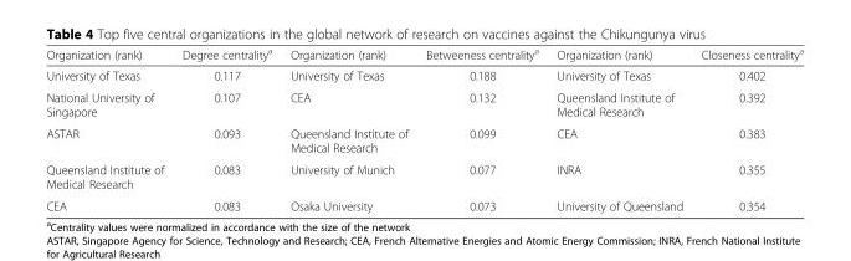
<table><thead><tr><td>Organization (rank)</td><td>Degree centrality<sup>a</sup></td><td>Organization (rank)</td><td>Betweeness centrality<sup>a</sup></td><td>Organization (rank)</td><td>Closeness centrality<sup>a</sup></td></tr></thead><tbody><tr><td>University of Texas</td><td>0.117</td><td>University of Texas</td><td>0.188</td><td>University of Texas</td><td>0.402</td></tr><tr><td>National University of Singapore</td><td>0.107</td><td>CEA</td><td>0.132</td><td>Queensland Institute of Medical Research</td><td>0.392</td></tr><tr><td>ASTAR</td><td>0.093</td><td>Queensland Institute of Medical Research</td><td>0.099</td><td>CEA</td><td>0.383</td></tr><tr><td>Queensland Institute of Medical Research</td><td>0.083</td><td>University of Munich</td><td>0.077</td><td>INRA</td><td>0.355</td></tr><tr><td>CEA</td><td>0.083</td><td>Osaka University</td><td>0.073</td><td>University of Queensland</td><td>0.354</td></tr></tbody></table>